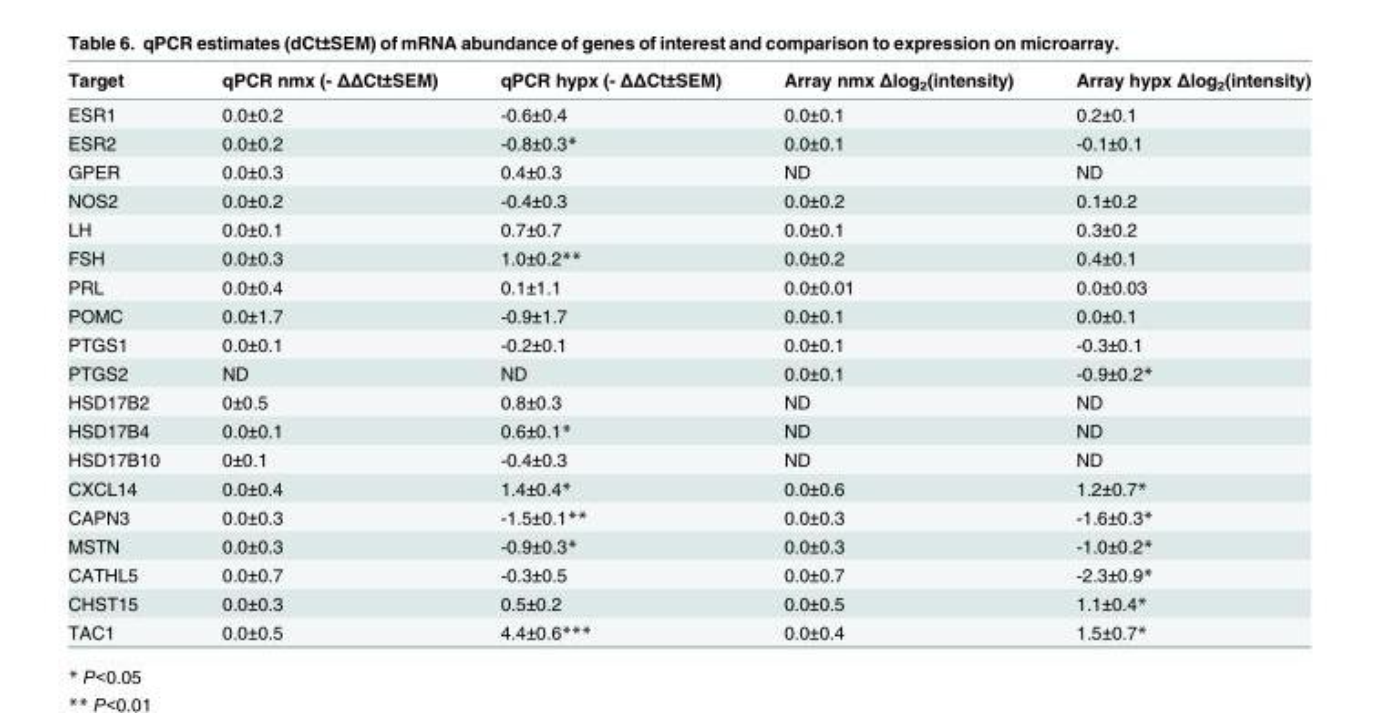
<table><thead><tr><td>Target</td><td>qPCR nmx (- ΔΔCt±SEM)</td><td>qPCR hypx (- ΔΔCt±SEM)</td><td>Array nmx Δlog<sub>2</sub>(intensity)</td><td>Array hypx Δlog<sub>2</sub>(intensity)</td></tr></thead><tbody><tr><td>ESR1</td><td>0.0±0.2</td><td>-0.6±0.4</td><td>0.0±0.1</td><td>0.2±0.1</td></tr><tr><td>ESR2</td><td>0.0±0.2</td><td>-0.8±0.3*</td><td>0.0±0.1</td><td>-0.1±0.1</td></tr><tr><td>GPER</td><td>0.0±0.3</td><td>0.4±0.3</td><td>ND</td><td>ND</td></tr><tr><td>NOS2</td><td>0.0±0.2</td><td>-0.4±0.3</td><td>0.0±0.2</td><td>0.1±0.2</td></tr><tr><td>LH</td><td>0.0±0.1</td><td>0.7±0.7</td><td>0.0±0.1</td><td>0.3±0.2</td></tr><tr><td>FSH</td><td>0.0±0.3</td><td>1.0±0.2**</td><td>0.0±0.2</td><td>0.4±0.1</td></tr><tr><td>PRL</td><td>0.0±0.4</td><td>0.1±1.1</td><td>0.0±0.01</td><td>0.0±0.03</td></tr><tr><td>POMC</td><td>0.0±1.7</td><td>-0.9±1.7</td><td>0.0±0.1</td><td>0.0±0.1</td></tr><tr><td>PTGS1</td><td>0.0±0.1</td><td>-0.2±0.1</td><td>0.0±0.1</td><td>-0.3±0.1</td></tr><tr><td>PTGS2</td><td>ND</td><td>ND</td><td>0.0±0.1</td><td>-0.9±0.2*</td></tr><tr><td>HSD17B2</td><td>0±0.5</td><td>0.8±0.3</td><td>ND</td><td>ND</td></tr><tr><td>HSD17B4</td><td>0.0±0.1</td><td>0.6±0.1*</td><td>ND</td><td>ND</td></tr><tr><td>HSD17B10</td><td>0±0.1</td><td>-0.4±0.3</td><td>ND</td><td>ND</td></tr><tr><td>CXCL14</td><td>0.0±0.4</td><td>1.4±0.4*</td><td>0.0±0.6</td><td>1.2±0.7*</td></tr><tr><td>CAPN3</td><td>0.0±0.3</td><td>-1.5±0.1**</td><td>0.0±0.3</td><td>-1.6±0.3*</td></tr><tr><td>MSTN</td><td>0.0±0.3</td><td>-0.9±0.3*</td><td>0.0±0.3</td><td>-1.0±0.2*</td></tr><tr><td>CATHL5</td><td>0.0±0.7</td><td>-0.3±0.5</td><td>0.0±0.7</td><td>-2.3±0.9*</td></tr><tr><td>CHST15</td><td>0.0±0.3</td><td>0.5±0.2</td><td>0.0±0.5</td><td>1.1±0.4*</td></tr><tr><td>TAC1</td><td>0.0±0.5</td><td>4.4±0.6***</td><td>0.0±0.4</td><td>1.5±0.7*</td></tr></tbody></table>